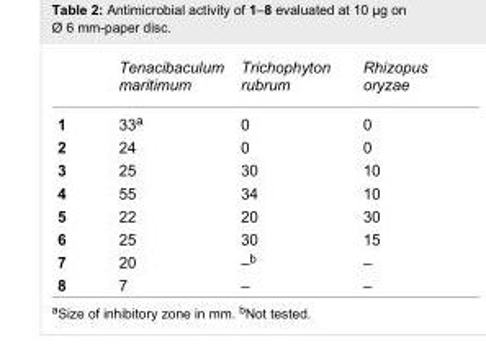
<table><thead><tr><td></td><td>Tenacibaculum maritimum</td><td>Trichophyton rubrum</td><td>Rhizopus oryzae</td></tr></thead><tbody><tr><td>1</td><td>33<sup>a</sup></td><td>0</td><td>0</td></tr><tr><td>2</td><td>24</td><td>0</td><td>0</td></tr><tr><td>3</td><td>25</td><td>30</td><td>10</td></tr><tr><td>4</td><td>55</td><td>34</td><td>10</td></tr><tr><td>5</td><td>22</td><td>20</td><td>30</td></tr><tr><td>6</td><td>25</td><td>30</td><td>15</td></tr><tr><td>7</td><td>20</td><td>–<sup>b</sup></td><td>–</td></tr><tr><td>8</td><td>7</td><td>–</td><td>–</td></tr></tbody></table>